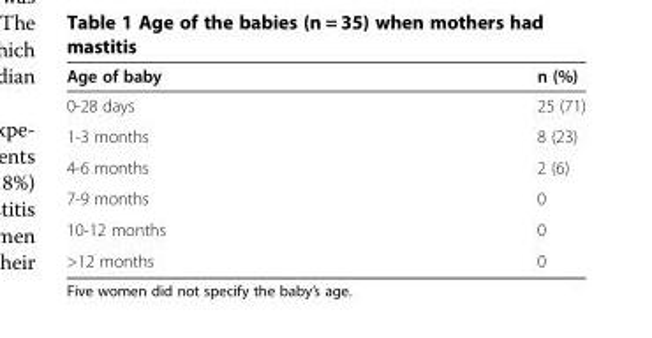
<table><thead><tr><td>Age of baby</td><td>n (%)</td></tr></thead><tbody><tr><td>0-28 days</td><td>25 (71)</td></tr><tr><td>1-3 months</td><td>8 (23)</td></tr><tr><td>4-6 months</td><td>2 (6)</td></tr><tr><td>7-9 months</td><td>0</td></tr><tr><td>10-12 months</td><td>0</td></tr><tr><td>&gt;12 months</td><td>0</td></tr></tbody></table>